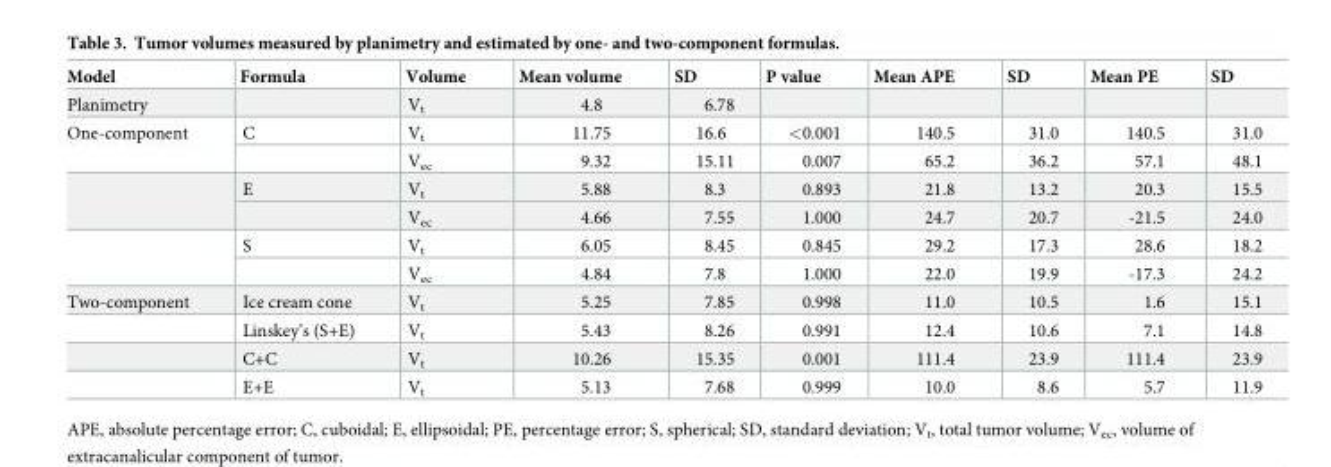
<table><thead><tr><td>Model</td><td>Formula</td><td>Volume</td><td>Mean volume</td><td>SD</td><td>P value</td><td>Mean APE</td><td>SD</td><td>Mean PE</td><td>SD</td></tr></thead><tbody><tr><td>Planimetry</td><td></td><td>V<sub>t</sub></td><td>4.8</td><td>6.78</td><td></td><td></td><td></td><td></td><td></td></tr><tr><td rowspan="6">One-component</td><td>C</td><td>V<sub>t</sub></td><td>11.75</td><td>16.6</td><td>&lt;0.001</td><td>140.5</td><td>31.0</td><td>140.5</td><td>31.0</td></tr><tr><td></td><td>V<sub>ec</sub></td><td>9.32</td><td>15.11</td><td>0.007</td><td>65.2</td><td>36.2</td><td>57.1</td><td>48.1</td></tr><tr><td>E</td><td>V<sub>t</sub></td><td>5.88</td><td>8.3</td><td>0.893</td><td>21.8</td><td>13.2</td><td>20.3</td><td>15.5</td></tr><tr><td></td><td>V<sub>ec</sub></td><td>4.66</td><td>7.55</td><td>1.000</td><td>24.7</td><td>20.7</td><td>-21.5</td><td>24.0</td></tr><tr><td>S</td><td>V<sub>t</sub></td><td>6.05</td><td>8.45</td><td>0.845</td><td>29.2</td><td>17.3</td><td>28.6</td><td>18.2</td></tr><tr><td></td><td>V<sub>ec</sub></td><td>4.84</td><td>7.8</td><td>1.000</td><td>22.0</td><td>19.9</td><td>-17.3</td><td>24.2</td></tr><tr><td rowspan="4">Two-component</td><td>Ice cream cone</td><td>V<sub>t</sub></td><td>5.25</td><td>7.85</td><td>0.998</td><td>11.0</td><td>10.5</td><td>1.6</td><td>15.1</td></tr><tr><td>Linskey’s (S+E)</td><td>V<sub>t</sub></td><td>5.43</td><td>8.26</td><td>0.991</td><td>12.4</td><td>10.6</td><td>7.1</td><td>14.8</td></tr><tr><td>C+C</td><td>V<sub>t</sub></td><td>10.26</td><td>15.35</td><td>0.001</td><td>111.4</td><td>23.9</td><td>111.4</td><td>23.9</td></tr><tr><td>E+E</td><td>V<sub>t</sub></td><td>5.13</td><td>7.68</td><td>0.999</td><td>10.0</td><td>8.6</td><td>5.7</td><td>11.9</td></tr></tbody></table>